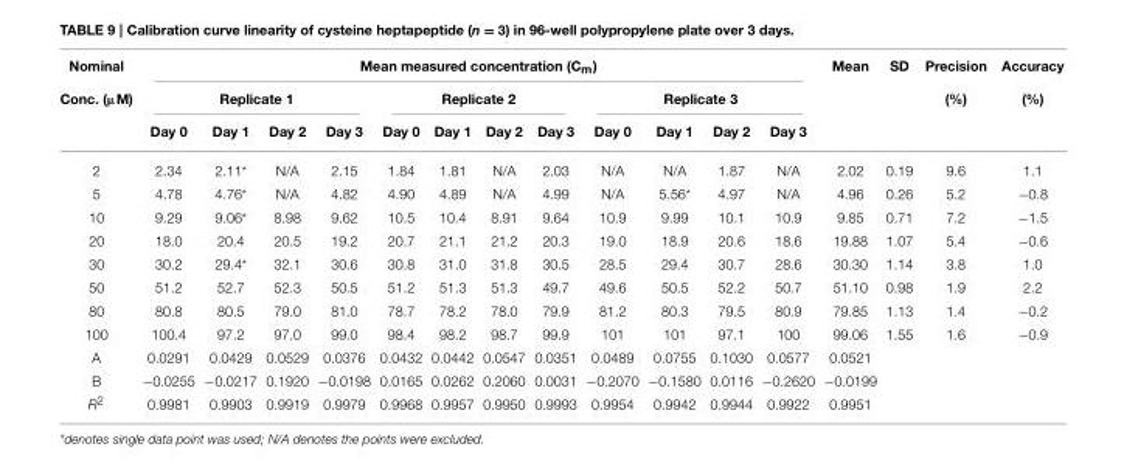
<table><thead><tr><td rowspan="3">Nominal Conc. (µM)</td><td colspan="12">Mean measured concentration (C<sub>m</sub>)</td><td rowspan="3">Mean</td><td rowspan="3">SD</td><td rowspan="3">Precision (%)</td><td rowspan="3">Accuracy (%)</td></tr><tr><td colspan="4">Replicate 1</td><td colspan="4">Replicate 2</td><td colspan="4">Replicate 3</td></tr><tr><td>Day 0</td><td>Day 1</td><td>Day 2</td><td>Day 3</td><td>Day 0</td><td>Day 1</td><td>Day 2</td><td>Day 3</td><td>Day 0</td><td>Day 1</td><td>Day 2</td><td>Day 3</td></tr></thead><tbody><tr><td>2</td><td>2.34</td><td>2.11*</td><td>N/A</td><td>2.15</td><td>1.84</td><td>1.81</td><td>N/A</td><td>2.03</td><td>N/A</td><td>N/A</td><td>1.87</td><td>N/A</td><td>2.02</td><td>0.19</td><td>9.6</td><td>1.1</td></tr><tr><td>5</td><td>4.78</td><td>4.76*</td><td>N/A</td><td>4.82</td><td>4.90</td><td>4.89</td><td>N/A</td><td>4.99</td><td>N/A</td><td>5.56*</td><td>4.97</td><td>N/A</td><td>4.96</td><td>0.26</td><td>5.2</td><td>−0.8</td></tr><tr><td>10</td><td>9.29</td><td>9.06*</td><td>8.98</td><td>9.62</td><td>10.5</td><td>10.4</td><td>8.91</td><td>9.64</td><td>10.9</td><td>9.99</td><td>10.1</td><td>10.9</td><td>9.85</td><td>0.71</td><td>7.2</td><td>−1.5</td></tr><tr><td>20</td><td>18.0</td><td>20.4</td><td>20.5</td><td>19.2</td><td>20.7</td><td>21.1</td><td>21.2</td><td>20.3</td><td>19.0</td><td>18.9</td><td>20.6</td><td>18.6</td><td>19.88</td><td>1.07</td><td>5.4</td><td>−0.6</td></tr><tr><td>30</td><td>30.2</td><td>29.4*</td><td>32.1</td><td>30.6</td><td>30.8</td><td>31.0</td><td>31.8</td><td>30.5</td><td>28.5</td><td>29.4</td><td>30.7</td><td>28.6</td><td>30.30</td><td>1.14</td><td>3.8</td><td>1.0</td></tr><tr><td>50</td><td>51.2</td><td>52.7</td><td>52.3</td><td>50.5</td><td>51.2</td><td>51.3</td><td>51.3</td><td>49.7</td><td>49.6</td><td>50.5</td><td>52.2</td><td>50.7</td><td>51.10</td><td>0.98</td><td>1.9</td><td>2.2</td></tr><tr><td>80</td><td>80.8</td><td>80.5</td><td>79.0</td><td>81.0</td><td>78.7</td><td>78.2</td><td>78.0</td><td>79.9</td><td>81.2</td><td>80.3</td><td>79.5</td><td>80.9</td><td>79.85</td><td>1.13</td><td>1.4</td><td>−0.2</td></tr><tr><td>100</td><td>100.4</td><td>97.2</td><td>97.0</td><td>99.0</td><td>98.4</td><td>98.2</td><td>98.7</td><td>99.9</td><td>101</td><td>101</td><td>97.1</td><td>100</td><td>99.06</td><td>1.55</td><td>1.6</td><td>−0.9</td></tr><tr><td>A</td><td>0.0291</td><td>0.0429</td><td>0.0529</td><td>0.0376</td><td>0.0432</td><td>0.0442</td><td>0.0547</td><td>0.0351</td><td>0.0489</td><td>0.0755</td><td>0.1030</td><td>0.0577</td><td>0.0521</td><td></td><td></td><td></td></tr><tr><td>B</td><td>−0.0255</td><td>−0.0217</td><td>0.1920</td><td>−0.0198</td><td>0.0165</td><td>0.0262</td><td>0.2060</td><td>0.0031</td><td>−0.2070</td><td>−0.1580</td><td>0.0116</td><td>−0.2620</td><td>−0.0199</td><td></td><td></td><td></td></tr><tr><td>R<sup>2</sup></td><td>0.9981</td><td>0.9903</td><td>0.9919</td><td>0.9979</td><td>0.9968</td><td>0.9957</td><td>0.9950</td><td>0.9993</td><td>0.9954</td><td>0.9942</td><td>0.9944</td><td>0.9922</td><td>0.9951</td><td></td><td></td><td></td></tr></tbody></table>